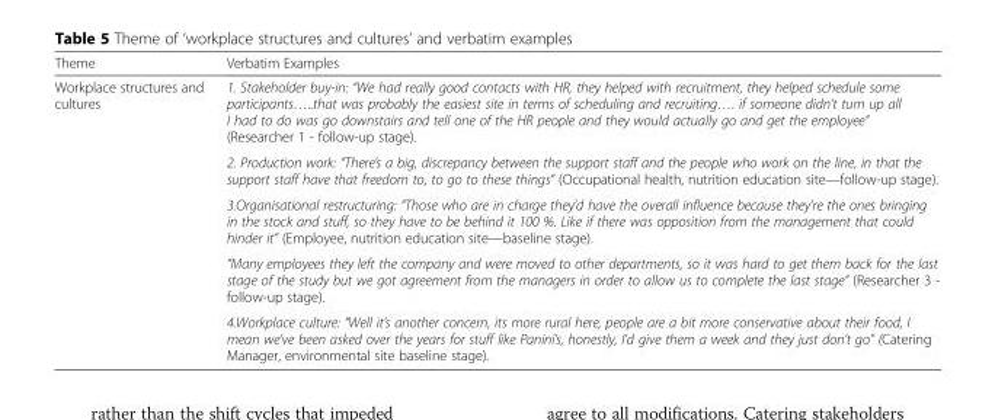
<table><thead><tr><td>Theme</td><td>Verbatim Examples</td></tr></thead><tbody><tr><td rowspan="5">Workplace structures and cultures</td><td>1. Stakeholder buy-in: “We had really good contacts with HR, they helped with recruitment, they helped schedule some participants…..that was probably the easiest site in terms of scheduling and recruiting…. if someone didn’t turn up all I had to do was go downstairs and tell one of the HR people and they would actually go and get the employee” (Researcher 1 - follow-up stage).</td></tr><tr><td>2. Production work: “There’s a big, discrepancy between the support staff and the people who work on the line, in that the support staff have that freedom to, to go to these things” (Occupational health, nutrition education site—follow-up stage).</td></tr><tr><td>3.Organisational restructuring: “Those who are in charge they’d have the overall influence because they’re the ones bringing in the stock and stuff, so they have to be behind it 100 %. Like if there was opposition from the management that could hinder it” (Employee, nutrition education site—baseline stage).</td></tr><tr><td>“Many employees they left the company and were moved to other departments, so it was hard to get them back for the last stage of the study but we got agreement from the managers in order to allow us to complete the last stage” (Researcher 3 - follow-up stage).</td></tr><tr><td>4.Workplace culture: “Well it’s another concern, its more rural here, people are a bit more conservative about their food, I mean we’ve been asked over the years for stuff like Panini’s, honestly, I’d give them a week and they just don’t go” (Catering Manager, environmental site baseline stage).</td></tr></tbody></table>